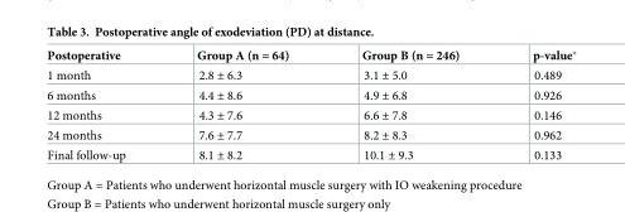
<table><thead><tr><td>Postoperative</td><td>Group A (n = 64)</td><td>Group B (n = 246)</td><td>p-value*</td></tr></thead><tbody><tr><td>1 month</td><td>2.8 ± 6.3</td><td>3.1 ± 5.0</td><td>0.489</td></tr><tr><td>6 months</td><td>4.4 ± 8.6</td><td>4.9 ± 6.8</td><td>0.926</td></tr><tr><td>12 months</td><td>4.3 ± 7.6</td><td>6.6 ± 7.8</td><td>0.146</td></tr><tr><td>24 months</td><td>7.6 ± 7.7</td><td>8.2 ± 8.3</td><td>0.962</td></tr><tr><td>Final follow-up</td><td>8.1 ± 8.2</td><td>10.1 ± 9.3</td><td>0.133</td></tr></tbody></table>